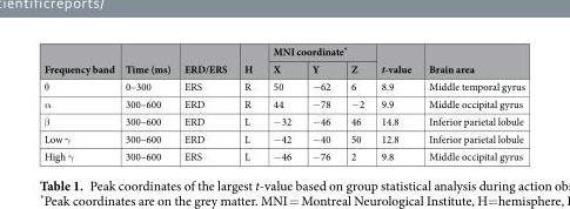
<table><thead><tr><td rowspan="2">Frequency band</td><td rowspan="2">Time (ms)</td><td rowspan="2">ERD/ERS</td><td rowspan="2">H</td><td colspan="3">MNI coordinate*</td><td rowspan="2">t-value</td><td rowspan="2">Brain area</td></tr><tr><td>X</td><td>Y</td><td>Z</td></tr></thead><tbody><tr><td>θ</td><td>0–300</td><td>ERS</td><td>R</td><td>50</td><td>−62</td><td>6</td><td>8.9</td><td>Middle temporal gyrus</td></tr><tr><td>α</td><td>300–600</td><td>ERD</td><td>R</td><td>44</td><td>−78</td><td>−2</td><td>9.9</td><td>Middle occipital gyrus</td></tr><tr><td>β</td><td>300–600</td><td>ERD</td><td>L</td><td>−32</td><td>−46</td><td>46</td><td>14.8</td><td>Inferior parietal lobule</td></tr><tr><td>Low γ</td><td>300–600</td><td>ERD</td><td>L</td><td>−42</td><td>−40</td><td>50</td><td>12.8</td><td>Inferior parietal lobule</td></tr><tr><td>High γ</td><td>300–600</td><td>ERS</td><td>L</td><td>−46</td><td>−76</td><td>2</td><td>9.8</td><td>Middle occipital gyrus</td></tr></tbody></table>